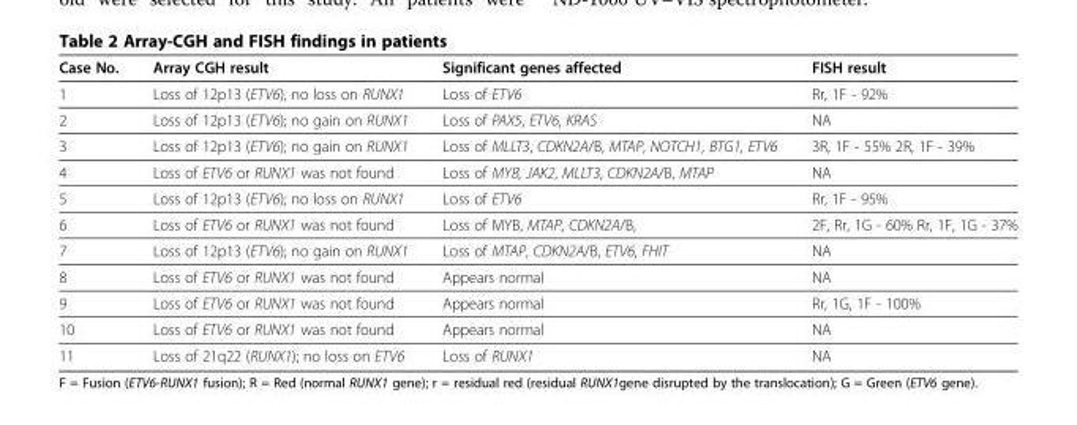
<table><thead><tr><td>Case No.</td><td>Array CGH result</td><td>Significant genes affected</td><td>FISH result</td></tr></thead><tbody><tr><td>1</td><td>Loss of 12p13 (ETV6), no loss on RUNX1</td><td>Loss of ETV6</td><td>Rr, 1F - 92%</td></tr><tr><td>2</td><td>Loss of 12p13 (ETV6); no gain on RUNX1</td><td>Loss of PAX5, ETV6, KRAS</td><td>NA</td></tr><tr><td>3</td><td>Loss of 12p13 (ETV6); no gain on RUNX1</td><td>Loss of MLLT3, CDKN2A/B, MTAP, NOTCH1, BTG1, ETV6</td><td>3R, 1F - 55% 2R, 1F - 39%</td></tr><tr><td>4</td><td>Loss of ETV6 or RUNX1 was not found</td><td>Loss of MYB, JAK2, MLLT3, CDKN2A/B, MTAP</td><td>NA</td></tr><tr><td>5</td><td>Loss of 12p13 (ETV6); no loss on RUNX1</td><td>Loss of ETV6</td><td>Rr, 1F - 95%</td></tr><tr><td>6</td><td>Loss of ETV6 or RUNX1 was not found</td><td>Loss of MYB, MTAP, CDKN2A/B,</td><td>2F, Rr, 1G - 60% Rr, 1F, 1G - 37%</td></tr><tr><td>7</td><td>Loss of 12p13 (ETV6); no gain on RUNX1</td><td>Loss of MTAP, CDKN2A/B, ETV6, FHIT</td><td>NA</td></tr><tr><td>8</td><td>Loss of ETV6 or RUNX1 was not found</td><td>Appears normal</td><td>NA</td></tr><tr><td>9</td><td>Loss of ETV6 or RUNX1 was not found</td><td>Appears normal</td><td>Rr, 1G, 1F - 100%</td></tr><tr><td>10</td><td>Loss of ETV6 or RUNX1 was not found</td><td>Appears normal</td><td>NA</td></tr><tr><td>11</td><td>Loss of 21q22 (RUNX1); no loss on ETV6</td><td>Loss of RUNX1</td><td>NA</td></tr></tbody></table>